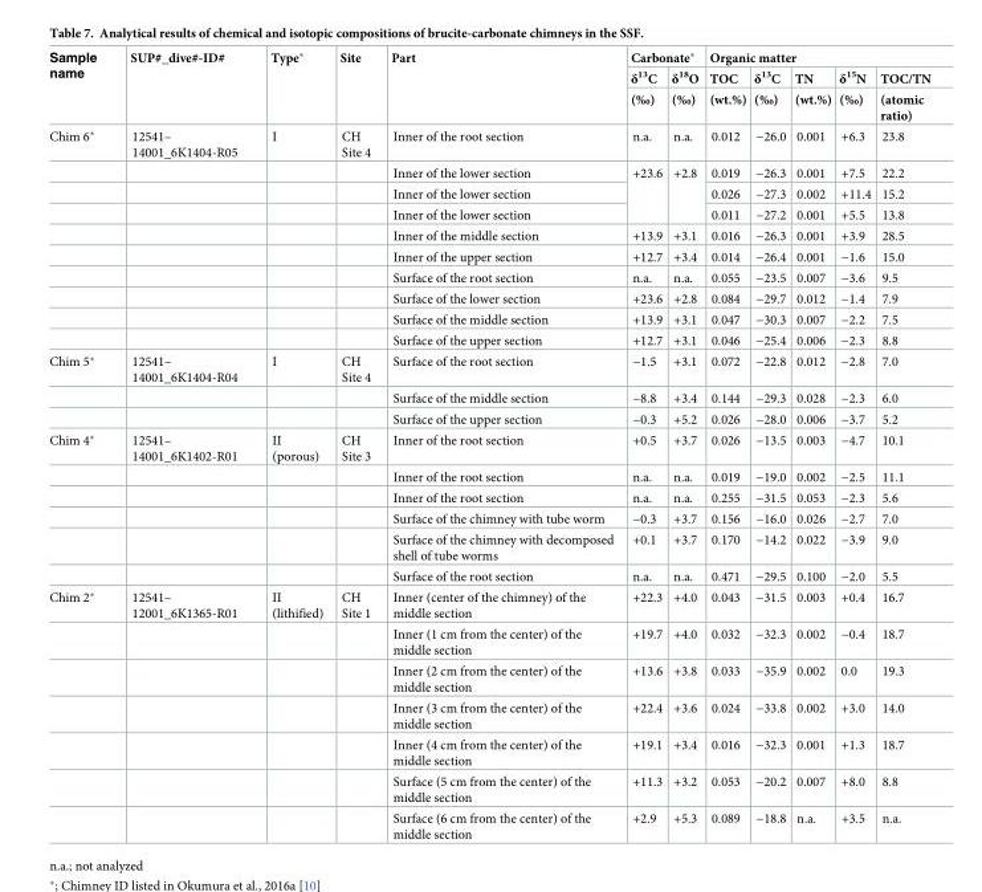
<table><thead><tr><td rowspan="3">Sample name</td><td rowspan="3">SUP#_dive#-ID#</td><td rowspan="3">Type*</td><td rowspan="3">Site</td><td rowspan="3">Part</td><td colspan="2">Carbonate*</td><td colspan="5">Organic matter</td></tr><tr><td rowspan="2">δ<sup>13</sup>C (‰)</td><td rowspan="2">δ<sup>18</sup>O (‰)</td><td rowspan="2">TOC (wt.%)</td><td rowspan="2">δ<sup>13</sup>C (‰)</td><td rowspan="2">TN (wt.%)</td><td rowspan="2">δ<sup>15</sup>N (‰)</td><td rowspan="2">TOC/TN (atomic ratio)</td></tr><tr></tr></thead><tbody><tr><td rowspan="10">Chim 6*</td><td>12541– 14001_6K1404-R05</td><td>I</td><td>CH Site 4</td><td>Inner of the root section</td><td>n.a.</td><td>n.a.</td><td>0.012</td><td>−26.0</td><td>0.001</td><td>+6.3</td><td>23.8</td></tr><tr><td></td><td></td><td></td><td>Inner of the lower section</td><td rowspan="3">+23.6</td><td rowspan="3">+2.8</td><td>0.019</td><td>−26.3</td><td>0.001</td><td>+7.5</td><td>22.2</td></tr><tr><td></td><td></td><td></td><td>Inner of the lower section</td><td>0.026</td><td>−27.3</td><td>0.002</td><td>+11.4</td><td>15.2</td></tr><tr><td></td><td></td><td></td><td>Inner of the lower section</td><td>0.011</td><td>−27.2</td><td>0.001</td><td>+5.5</td><td>13.8</td></tr><tr><td></td><td></td><td></td><td>Inner of the middle section</td><td>+13.9</td><td>+3.1</td><td>0.016</td><td>−26.3</td><td>0.001</td><td>+3.9</td><td>28.5</td></tr><tr><td></td><td></td><td></td><td>Inner of the upper section</td><td>+12.7</td><td>+3.4</td><td>0.014</td><td>−26.4</td><td>0.001</td><td>−1.6</td><td>15.0</td></tr><tr><td></td><td></td><td></td><td>Surface of the root section</td><td>n.a.</td><td>n.a.</td><td>0.055</td><td>−23.5</td><td>0.007</td><td>−3.6</td><td>9.5</td></tr><tr><td></td><td></td><td></td><td>Surface of the lower section</td><td>+23.6</td><td>+2.8</td><td>0.084</td><td>−29.7</td><td>0.012</td><td>−1.4</td><td>7.9</td></tr><tr><td></td><td></td><td></td><td>Surface of the middle section</td><td>+13.9</td><td>+3.1</td><td>0.047</td><td>−30.3</td><td>0.007</td><td>−2.2</td><td>7.5</td></tr><tr><td></td><td></td><td></td><td>Surface of the upper section</td><td>+12.7</td><td>+3.1</td><td>0.046</td><td>−25.4</td><td>0.006</td><td>−2.3</td><td>8.8</td></tr><tr><td rowspan="3">Chim 5*</td><td>12541– 14001_6K1404-R04</td><td>I</td><td>CH Site 4</td><td>Surface of the root section</td><td>−1.5</td><td>+3.1</td><td>0.072</td><td>−22.8</td><td>0.012</td><td>−2.8</td><td>7.0</td></tr><tr><td></td><td></td><td></td><td>Surface of the middle section</td><td>−8.8</td><td>+3.4</td><td>0.144</td><td>−29.3</td><td>0.028</td><td>−2.3</td><td>6.0</td></tr><tr><td></td><td></td><td></td><td>Surface of the upper section</td><td>−0.3</td><td>+5.2</td><td>0.026</td><td>−28.0</td><td>0.006</td><td>−3.7</td><td>5.2</td></tr><tr><td rowspan="6">Chim 4*</td><td>12541– 14001_6K1402-R01</td><td>II (porous)</td><td>CH Site 3</td><td>Inner of the root section</td><td>+0.5</td><td>+3.7</td><td>0.026</td><td>−13.5</td><td>0.003</td><td>−4.7</td><td>10.1</td></tr><tr><td></td><td></td><td></td><td>Inner of the root section</td><td>n.a.</td><td>n.a.</td><td>0.019</td><td>−19.0</td><td>0.002</td><td>−2.5</td><td>11.1</td></tr><tr><td></td><td></td><td></td><td>Inner of the root section</td><td>n.a.</td><td>n.a.</td><td>0.255</td><td>−31.5</td><td>0.053</td><td>−2.3</td><td>5.6</td></tr><tr><td></td><td></td><td></td><td>Surface of the chimney with tube worm</td><td>−0.3</td><td>+3.7</td><td>0.156</td><td>−16.0</td><td>0.026</td><td>−2.7</td><td>7.0</td></tr><tr><td></td><td></td><td></td><td>Surface of the chimney with decomposed shell of tube worms</td><td>+0.1</td><td>+3.7</td><td>0.170</td><td>−14.2</td><td>0.022</td><td>−3.9</td><td>9.0</td></tr><tr><td></td><td></td><td></td><td>Surface of the root section</td><td>n.a.</td><td>n.a.</td><td>0.471</td><td>−29.5</td><td>0.100</td><td>−2.0</td><td>5.5</td></tr><tr><td rowspan="7">Chim 2*</td><td>12541– 12001_6K1365-R01</td><td>II (lithified)</td><td>CH Site 1</td><td>Inner (center of the chimney) of the middle section</td><td>+22.3</td><td>+4.0</td><td>0.043</td><td>−31.5</td><td>0.003</td><td>+0.4</td><td>16.7</td></tr><tr><td></td><td></td><td></td><td>Inner (1 cm from the center) of the middle section</td><td>+19.7</td><td>+4.0</td><td>0.032</td><td>−32.3</td><td>0.002</td><td>−0.4</td><td>18.7</td></tr><tr><td></td><td></td><td></td><td>Inner (2 cm from the center) of the middle section</td><td>+13.6</td><td>+3.8</td><td>0.033</td><td>−35.9</td><td>0.002</td><td>0.0</td><td>19.3</td></tr><tr><td></td><td></td><td></td><td>Inner (3 cm from the center) of the middle section</td><td>+22.4</td><td>+3.6</td><td>0.024</td><td>−33.8</td><td>0.002</td><td>+3.0</td><td>14.0</td></tr><tr><td></td><td></td><td></td><td>Inner (4 cm from the center) of the middle section</td><td>+19.1</td><td>+3.4</td><td>0.016</td><td>−32.3</td><td>0.001</td><td>+1.3</td><td>18.7</td></tr><tr><td></td><td></td><td></td><td>Surface (5 cm from the center) of the middle section</td><td>+11.3</td><td>+3.2</td><td>0.053</td><td>−20.2</td><td>0.007</td><td>+8.0</td><td>8.8</td></tr><tr><td></td><td></td><td></td><td>Surface (6 cm from the center) of the middle section</td><td>+2.9</td><td>+5.3</td><td>0.089</td><td>−18.8</td><td>n.a.</td><td>+3.5</td><td>n.a.</td></tr></tbody></table>